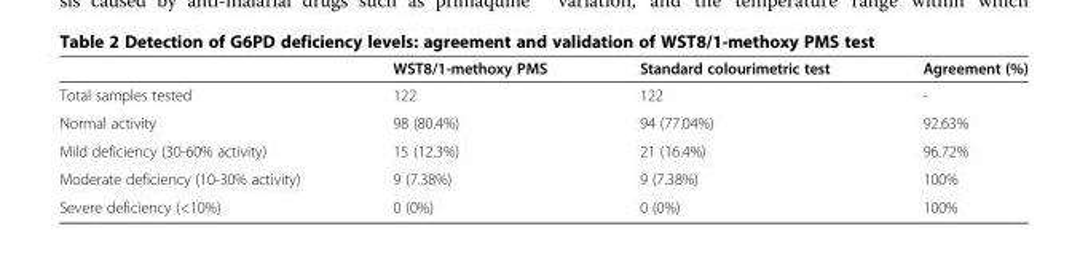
<table><thead><tr><td></td><td>WST8/1-methoxy PMS</td><td>Standard colourimetric test</td><td>Agreement (%)</td></tr></thead><tbody><tr><td>Total samples tested</td><td>122</td><td>122</td><td>-</td></tr><tr><td>Normal activity</td><td>98 (80.4%)</td><td>94 (77.04%)</td><td>92.63%</td></tr><tr><td>Mild deficiency (30-60% activity)</td><td>15 (12.3%)</td><td>21 (16.4%)</td><td>96.72%</td></tr><tr><td>Moderate deficiency (10-30% activity)</td><td>9 (7.38%)</td><td>9 (7.38%)</td><td>100%</td></tr><tr><td>Severe deficiency (&lt;10%)</td><td>0 (0%)</td><td>0 (0%)</td><td>100%</td></tr></tbody></table>